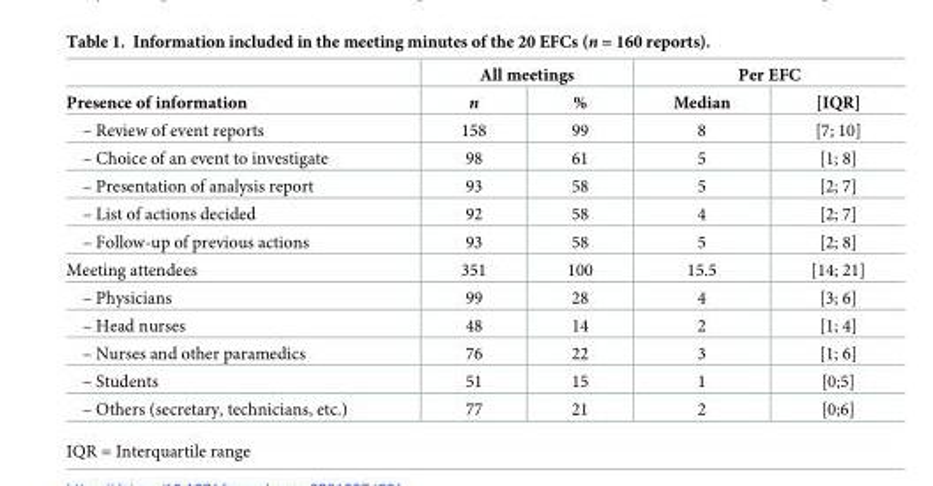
<table><thead><tr><td rowspan="2">Presence of information</td><td colspan="2">All meetings</td><td colspan="2">Per EFC</td></tr><tr><td>n</td><td>%</td><td>Median</td><td>[IQR]</td></tr></thead><tbody><tr><td>– Review of event reports</td><td>158</td><td>99</td><td>8</td><td>[7; 10]</td></tr><tr><td>– Choice of an event to investigate</td><td>98</td><td>61</td><td>5</td><td>[1; 8]</td></tr><tr><td>– Presentation of analysis report</td><td>93</td><td>58</td><td>5</td><td>[2; 7]</td></tr><tr><td>– List of actions decided</td><td>92</td><td>58</td><td>4</td><td>[2; 7]</td></tr><tr><td>– Follow-up of previous actions</td><td>93</td><td>58</td><td>5</td><td>[2; 8]</td></tr><tr><td>Meeting attendees</td><td>351</td><td>100</td><td>15.5</td><td>[14; 21]</td></tr><tr><td>– Physicians</td><td>99</td><td>28</td><td>4</td><td>[3; 6]</td></tr><tr><td>– Head nurses</td><td>48</td><td>14</td><td>2</td><td>[1; 4]</td></tr><tr><td>– Nurses and other paramedics</td><td>76</td><td>22</td><td>3</td><td>[1; 6]</td></tr><tr><td>– Students</td><td>51</td><td>15</td><td>1</td><td>[0;5]</td></tr><tr><td>– Others (secretary, technicians, etc.)</td><td>77</td><td>21</td><td>2</td><td>[0;6]</td></tr></tbody></table>